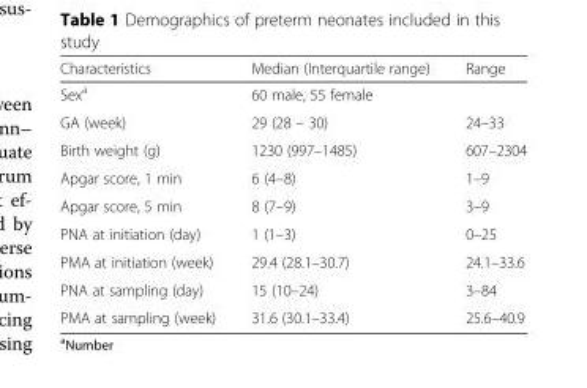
<table><thead><tr><td>Characteristics</td><td>Median (Interquartile range)</td><td>Range</td></tr></thead><tbody><tr><td>Sex<sup>a</sup></td><td>60 male, 55 female</td><td></td></tr><tr><td>GA (week)</td><td>29 (28 – 30)</td><td>24–33</td></tr><tr><td>Birth weight (g)</td><td>1230 (997–1485)</td><td>607–2304</td></tr><tr><td>Apgar score, 1 min</td><td>6 (4–8)</td><td>1–9</td></tr><tr><td>Apgar score, 5 min</td><td>8 (7–9)</td><td>3–9</td></tr><tr><td>PNA at initiation (day)</td><td>1 (1–3)</td><td>0–25</td></tr><tr><td>PMA at initiation (week)</td><td>29.4 (28.1–30.7)</td><td>24.1–33.6</td></tr><tr><td>PNA at sampling (day)</td><td>15 (10–24)</td><td>3–84</td></tr><tr><td>PMA at sampling (week)</td><td>31.6 (30.1–33.4)</td><td>25.6–40.9</td></tr></tbody></table>